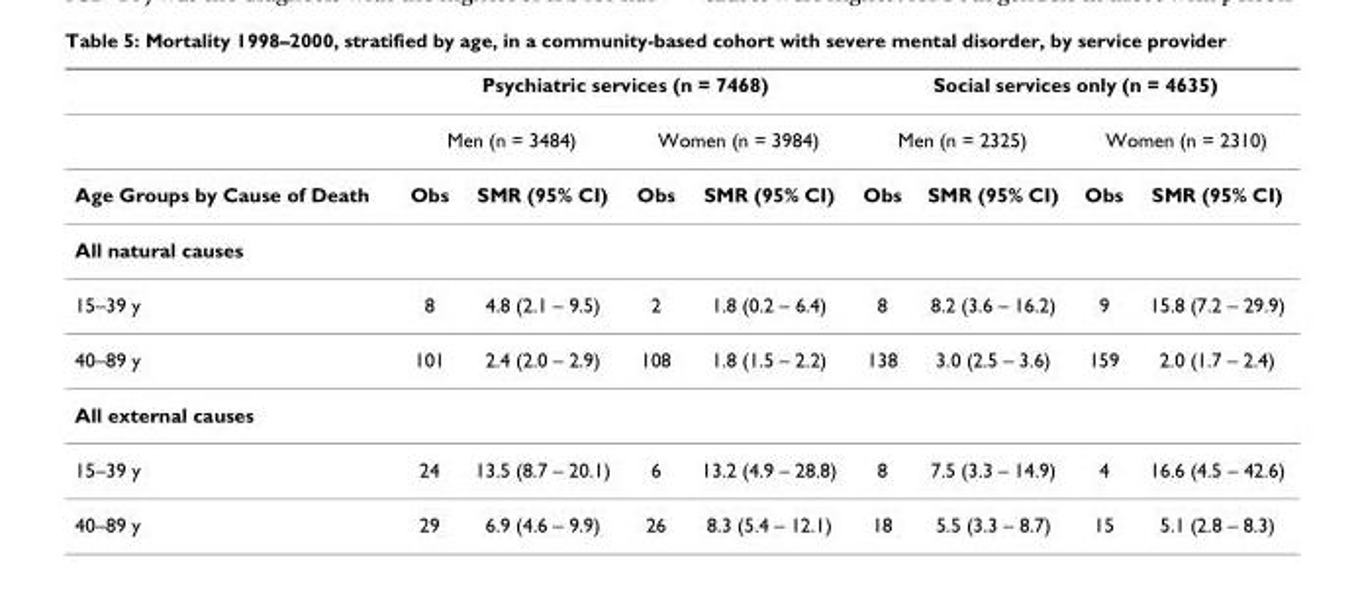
<table><thead><tr><td rowspan="3">Age Groups by Cause of Death</td><td colspan="4">Psychiatric services (n = 7468)</td><td colspan="4">Social services only (n = 4635)</td></tr><tr><td colspan="2">Men (n = 3484)</td><td colspan="2">Women (n = 3984)</td><td colspan="2">Men (n = 2325)</td><td colspan="2">Women (n = 2310)</td></tr><tr><td>Obs</td><td>SMR (95% CI)</td><td>Obs</td><td>SMR (95% CI)</td><td>Obs</td><td>SMR (95% CI)</td><td>Obs</td><td>SMR (95% CI)</td></tr></thead><tbody><tr><td colspan="9">All natural causes</td></tr><tr><td>15–39 y</td><td>8</td><td>4.8 (2.1 – 9.5)</td><td>2</td><td>1.8 (0.2 – 6.4)</td><td>8</td><td>8.2 (3.6 – 16.2)</td><td>9</td><td>15.8 (7.2 – 29.9)</td></tr><tr><td>40–89 y</td><td>101</td><td>2.4 (2.0 – 2.9)</td><td>108</td><td>1.8 (1.5 – 2.2)</td><td>138</td><td>3.0 (2.5 – 3.6)</td><td>159</td><td>2.0 (1.7 – 2.4)</td></tr><tr><td colspan="9">All external causes</td></tr><tr><td>15–39 y</td><td>24</td><td>13.5 (8.7 – 20.1)</td><td>6</td><td>13.2 (4.9 – 28.8)</td><td>8</td><td>7.5 (3.3 – 14.9)</td><td>4</td><td>16.6 (4.5 – 42.6)</td></tr><tr><td>40–89 y</td><td>29</td><td>6.9 (4.6 – 9.9)</td><td>26</td><td>8.3 (5.4 – 12.1)</td><td>18</td><td>5.5 (3.3 – 8.7)</td><td>15</td><td>5.1 (2.8 – 8.3)</td></tr></tbody></table>